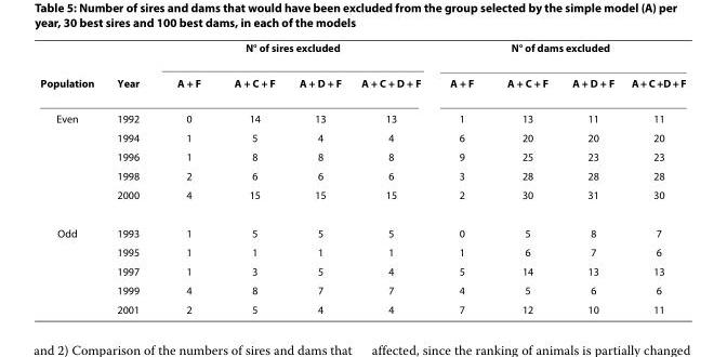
<table><thead><tr><td rowspan="2">Population</td><td rowspan="2">Year</td><td colspan="4">N° of sires excluded</td><td colspan="4">N° of dams excluded</td></tr><tr><td>A + F</td><td>A + C + F</td><td>A + D + F</td><td>A + C + D + F</td><td>A + F</td><td>A + C + F</td><td>A + D + F</td><td>A + C +D + F</td></tr></thead><tbody><tr><td rowspan="5">Even</td><td>1992</td><td>0</td><td>14</td><td>13</td><td>13</td><td>1</td><td>13</td><td>11</td><td>11</td></tr><tr><td>1994</td><td>1</td><td>5</td><td>4</td><td>4</td><td>6</td><td>20</td><td>20</td><td>20</td></tr><tr><td>1996</td><td>1</td><td>8</td><td>8</td><td>8</td><td>9</td><td>25</td><td>23</td><td>23</td></tr><tr><td>1998</td><td>2</td><td>6</td><td>6</td><td>6</td><td>3</td><td>28</td><td>28</td><td>28</td></tr><tr><td>2000</td><td>4</td><td>15</td><td>15</td><td>15</td><td>2</td><td>30</td><td>31</td><td>30</td></tr><tr><td rowspan="5">Odd</td><td>1993</td><td>1</td><td>5</td><td>5</td><td>5</td><td>0</td><td>5</td><td>8</td><td>7</td></tr><tr><td>1995</td><td>1</td><td>1</td><td>1</td><td>1</td><td>1</td><td>6</td><td>7</td><td>6</td></tr><tr><td>1997</td><td>1</td><td>3</td><td>5</td><td>4</td><td>5</td><td>14</td><td>13</td><td>13</td></tr><tr><td>1999</td><td>4</td><td>8</td><td>7</td><td>7</td><td>4</td><td>5</td><td>6</td><td>6</td></tr><tr><td>2001</td><td>2</td><td>5</td><td>4</td><td>4</td><td>7</td><td>12</td><td>10</td><td>11</td></tr></tbody></table>